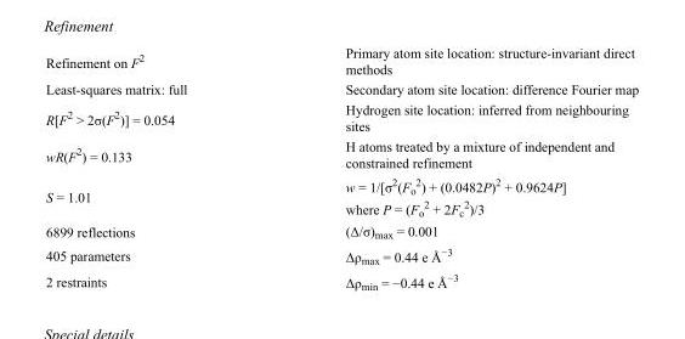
<table><tbody><tr><td>Refinement on F<sup>2</sup></td><td>Primary atom site location: structure-invariant direct methods</td></tr><tr><td>Least-squares matrix: full</td><td>Secondary atom site location: difference Fourier map</td></tr><tr><td>R[F<sup>2</sup> &gt; 2σ(F<sup>2</sup>)] = 0.054</td><td>Hydrogen site location: inferred from neighbouring sites</td></tr><tr><td>wR(F<sup>2</sup>) = 0.133</td><td>H atoms treated by a mixture of independent and constrained refinement</td></tr><tr><td>S = 1.01</td><td>w = 1/[σ<sup>2</sup>(F<sub>o</sub> <sup>2</sup>) + (0.0482P)<sup>2</sup> + 0.9624P] where P = (F<sub>o</sub> <sup>2</sup> + 2F<sub>c</sub> <sup>2</sup>)/3</td></tr><tr><td>6899 reflections</td><td>(Δ/σ)<sub>max</sub> = 0.001</td></tr><tr><td>405 parameters</td><td>Δρ<sub>max</sub> = 0.44 e Å<sup>−3</sup></td></tr><tr><td>2 restraints</td><td>Δρ<sub>min</sub> = −0.44 e Å<sup>−3</sup></td></tr></tbody></table>